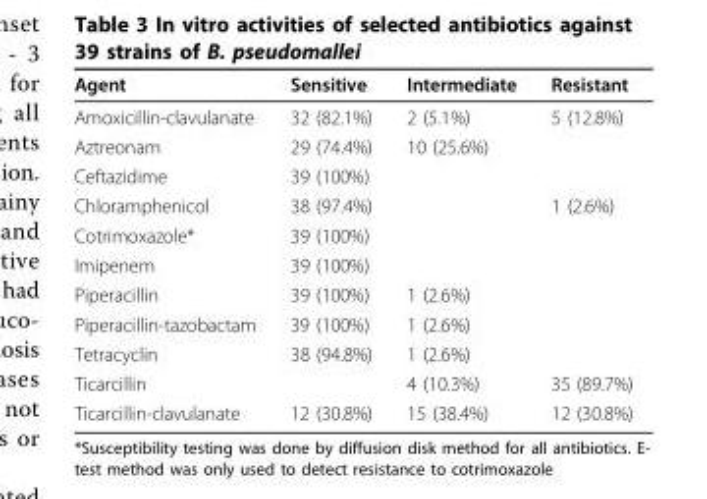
<table><thead><tr><td>Agent</td><td>Sensitive</td><td>Intermediate</td><td>Resistant</td></tr></thead><tbody><tr><td>Amoxicillin-clavulanate</td><td>32 (82.1%)</td><td>2 (5.1%)</td><td>5 (12.8%)</td></tr><tr><td>Aztreonam</td><td>29 (74.4%)</td><td>10 (25.6%)</td><td></td></tr><tr><td>Ceftazidime</td><td>39 (100%)</td><td></td><td></td></tr><tr><td>Chloramphenicol</td><td>38 (97.4%)</td><td></td><td>1 (2.6%)</td></tr><tr><td>Cotrimoxazole*</td><td>39 (100%)</td><td></td><td></td></tr><tr><td>Imipenem</td><td>39 (100%)</td><td></td><td></td></tr><tr><td>Piperacillin</td><td>39 (100%)</td><td>1 (2.6%)</td><td></td></tr><tr><td>Piperacillin-tazobactam</td><td>39 (100%)</td><td>1 (2.6%)</td><td></td></tr><tr><td>Tetracyclin</td><td>38 (94.8%)</td><td>1 (2.6%)</td><td></td></tr><tr><td>Ticarcillin</td><td></td><td>4 (10.3%)</td><td>35 (89.7%)</td></tr><tr><td>Ticarcillin-clavulanate</td><td>12 (30.8%)</td><td>15 (38.4%)</td><td>12 (30.8%)</td></tr></tbody></table>